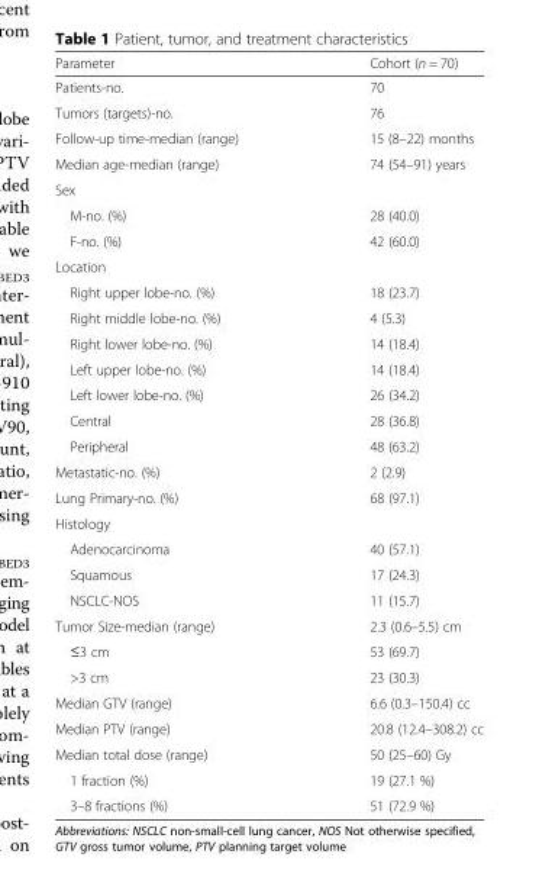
<table><thead><tr><td>Parameter</td><td>Cohort (n = 70)</td></tr></thead><tbody><tr><td>Patients-no.</td><td>70</td></tr><tr><td>Tumors (targets)-no.</td><td>76</td></tr><tr><td>Follow-up time-median (range)</td><td>15 (8–22) months</td></tr><tr><td>Median age-median (range)</td><td>74 (54–91) years</td></tr><tr><td colspan="2">Sex</td></tr><tr><td>M-no. (%)</td><td>28 (40.0)</td></tr><tr><td>F-no. (%)</td><td>42 (60.0)</td></tr><tr><td colspan="2">Location</td></tr><tr><td>Right upper lobe-no. (%)</td><td>18 (23.7)</td></tr><tr><td>Right middle lobe-no. (%)</td><td>4 (5.3)</td></tr><tr><td>Right lower lobe-no. (%)</td><td>14 (18.4)</td></tr><tr><td>Left upper lobe-no. (%)</td><td>14 (18.4)</td></tr><tr><td>Left lower lobe-no. (%)</td><td>26 (34.2)</td></tr><tr><td>Central</td><td>28 (36.8)</td></tr><tr><td>Peripheral</td><td>48 (63.2)</td></tr><tr><td>Metastatic-no. (%)</td><td>2 (2.9)</td></tr><tr><td>Lung Primary-no. (%)</td><td>68 (97.1)</td></tr><tr><td colspan="2">Histology</td></tr><tr><td>Adenocarcinoma</td><td>40 (57.1)</td></tr><tr><td>Squamous</td><td>17 (24.3)</td></tr><tr><td>NSCLC-NOS</td><td>11 (15.7)</td></tr><tr><td>Tumor Size-median (range)</td><td>2.3 (0.6–5.5) cm</td></tr><tr><td>≤3 cm</td><td>53 (69.7)</td></tr><tr><td>&gt;3 cm</td><td>23 (30.3)</td></tr><tr><td>Median GTV (range)</td><td>6.6 (0.3–150.4) cc</td></tr><tr><td>Median PTV (range)</td><td>20.8 (12.4–308.2) cc</td></tr><tr><td>Median total dose (range)</td><td>50 (25–60) Gy</td></tr><tr><td>1 fraction (%)</td><td>19 (27.1 %)</td></tr><tr><td>3–8 fractions (%)</td><td>51 (72.9 %)</td></tr></tbody></table>